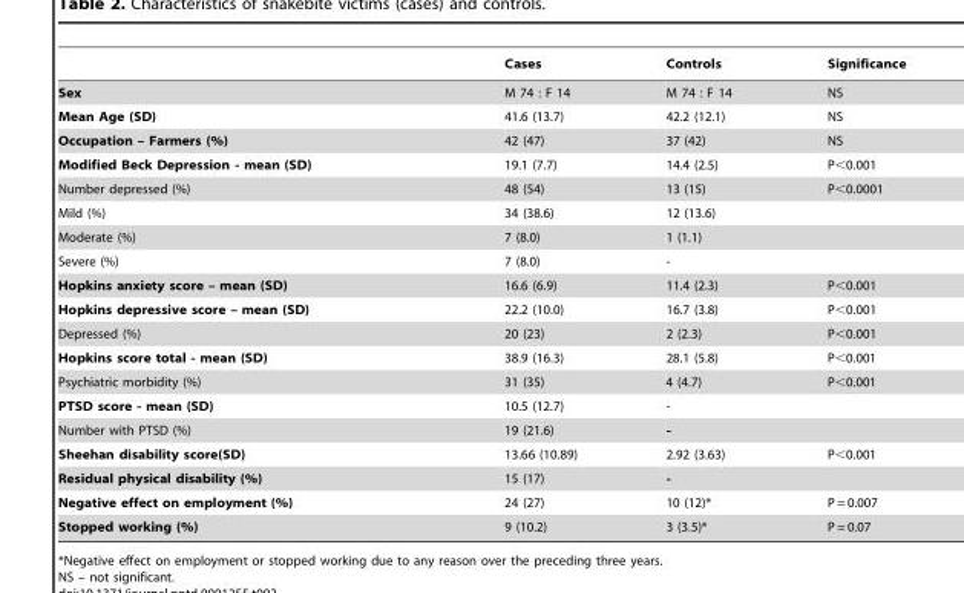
<table><thead><tr><td></td><td>Cases</td><td>Controls</td><td>Significance</td></tr></thead><tbody><tr><td>Sex</td><td>M 74 : F 14</td><td>M 74 : F 14</td><td>NS</td></tr><tr><td>Mean Age (SD)</td><td>41.6 (13.7)</td><td>42.2 (12.1)</td><td>NS</td></tr><tr><td>Occupation – Farmers (%)</td><td>42 (47)</td><td>37 (42)</td><td>NS</td></tr><tr><td>Modified Beck Depression - mean (SD)</td><td>19.1 (7.7)</td><td>14.4 (2.5)</td><td>P&lt;0.001</td></tr><tr><td>Number depressed (%)</td><td>48 (54)</td><td>13 (15)</td><td>P&lt;0.0001</td></tr><tr><td>Mild (%)</td><td>34 (38.6)</td><td>12 (13.6)</td><td></td></tr><tr><td>Moderate (%)</td><td>7 (8.0)</td><td>1 (1.1)</td><td></td></tr><tr><td>Severe (%)</td><td>7 (8.0)</td><td>-</td><td></td></tr><tr><td>Hopkins anxiety score – mean (SD)</td><td>16.6 (6.9)</td><td>11.4 (2.3)</td><td>P&lt;0.001</td></tr><tr><td>Hopkins depressive score – mean (SD)</td><td>22.2 (10.0)</td><td>16.7 (3.8)</td><td>P&lt;0.001</td></tr><tr><td>Depressed (%)</td><td>20 (23)</td><td>2 (2.3)</td><td>P&lt;0.001</td></tr><tr><td>Hopkins score total - mean (SD)</td><td>38.9 (16.3)</td><td>28.1 (5.8)</td><td>P&lt;0.001</td></tr><tr><td>Psychiatric morbidity (%)</td><td>31 (35)</td><td>4 (4.7)</td><td>P&lt;0.001</td></tr><tr><td>PTSD score - mean (SD)</td><td>10.5 (12.7)</td><td>-</td><td></td></tr><tr><td>Number with PTSD (%)</td><td>19 (21.6)</td><td>-</td><td></td></tr><tr><td>Sheehan disability score(SD)</td><td>13.66 (10.89)</td><td>2.92 (3.63)</td><td>P&lt;0.001</td></tr><tr><td>Residual physical disability (%)</td><td>15 (17)</td><td>-</td><td></td></tr><tr><td>Negative effect on employment (%)</td><td>24 (27)</td><td>10 (12)*</td><td>P = 0.007</td></tr><tr><td>Stopped working (%)</td><td>9 (10.2)</td><td>3 (3.5)*</td><td>P = 0.07</td></tr></tbody></table>